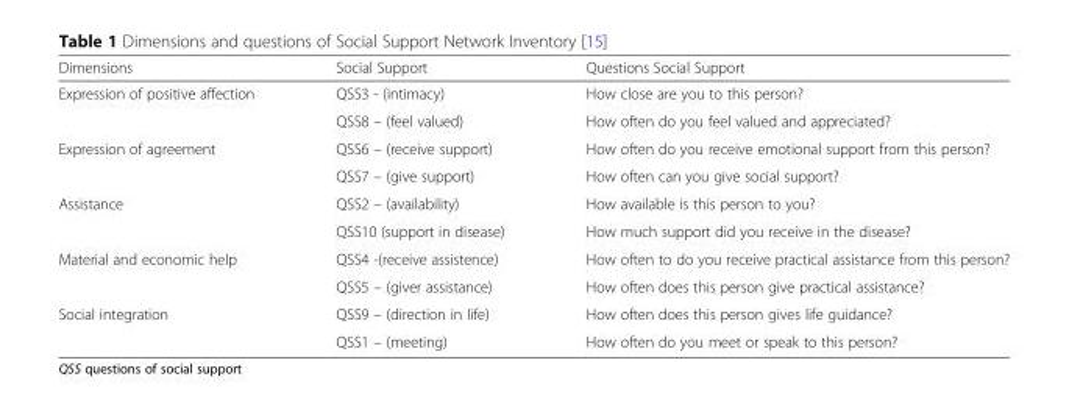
<table><thead><tr><td>Dimensions</td><td>Social Support</td><td>Questions Social Support</td></tr></thead><tbody><tr><td rowspan="2">Expression of positive affection</td><td>QSS3 - (intimacy)</td><td>How close are you to this person?</td></tr><tr><td>QSS8 – (feel valued)</td><td>How often do you feel valued and appreciated?</td></tr><tr><td rowspan="2">Expression of agreement</td><td>QSS6 – (receive support)</td><td>How often do you receive emotional support from this person?</td></tr><tr><td>QSS7 – (give support)</td><td>How often can you give social support?</td></tr><tr><td rowspan="2">Assistance</td><td>QSS2 – (availability)</td><td>How available is this person to you?</td></tr><tr><td>QSS10 (support in disease)</td><td>How much support did you receive in the disease?</td></tr><tr><td rowspan="2">Material and economic help</td><td>QSS4 -(receive assistence)</td><td>How often to do you receive practical assistance from this person?</td></tr><tr><td>QSS5 – (giver assistance)</td><td>How often does this person give practical assistance?</td></tr><tr><td rowspan="2">Social integration</td><td>QSS9 – (direction in life)</td><td>How often does this person gives life guidance?</td></tr><tr><td>QSS1 – (meeting)</td><td>How often do you meet or speak to this person?</td></tr></tbody></table>